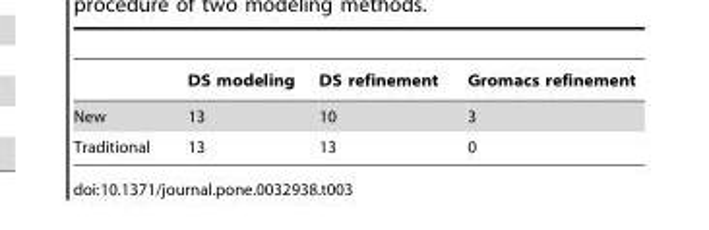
<table><thead><tr><td></td><td>DS modeling</td><td>DS refinement</td><td>Gromacs refinement</td></tr></thead><tbody><tr><td>New</td><td>13</td><td>10</td><td>3</td></tr><tr><td>Traditional</td><td>13</td><td>13</td><td>0</td></tr></tbody></table>